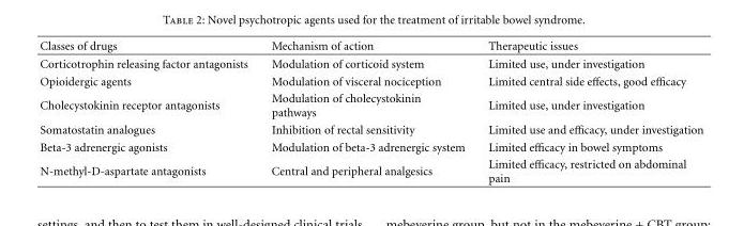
<table><thead><tr><td>Classes of drugs</td><td>Mechanism of action</td><td>Therapeutic issues</td></tr></thead><tbody><tr><td>Corticotrophin releasing factor antagonists</td><td>Modulation of corticoid system</td><td>Limited use, under investigation</td></tr><tr><td>Opioidergic agents</td><td>Modulation of visceral nociception</td><td>Limited central side effects, good efficacy</td></tr><tr><td>Cholecystokinin receptor antagonists</td><td>Modulation of cholecystokinin pathways</td><td>Limited use, under investigation</td></tr><tr><td>Somatostatin analogues</td><td>Inhibition of rectal sensitivity</td><td>Limited use and efficacy, under investigation</td></tr><tr><td>Beta-3 adrenergic agonists</td><td>Modulation of beta-3 adrenergic system</td><td>Limited efficacy in bowel symptoms</td></tr><tr><td>N-methyl-D-aspartate antagonists</td><td>Central and peripheral analgesics</td><td>Limited efficacy, restricted on abdominal pain</td></tr></tbody></table>